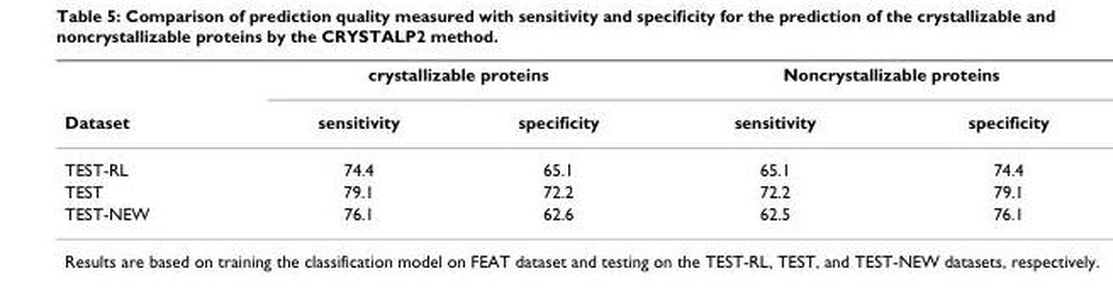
<table><thead><tr><td rowspan="2">Dataset</td><td colspan="2">crystallizable proteins</td><td colspan="2">Noncrystallizable proteins</td></tr><tr><td>sensitivity</td><td>specificity</td><td>sensitivity</td><td>specificity</td></tr></thead><tbody><tr><td>TEST-RL</td><td>74.4</td><td>65.1</td><td>65.1</td><td>74.4</td></tr><tr><td>TEST</td><td>79.1</td><td>72.2</td><td>72.2</td><td>79.1</td></tr><tr><td>TEST-NEW</td><td>76.1</td><td>62.6</td><td>62.5</td><td>76.1</td></tr></tbody></table>